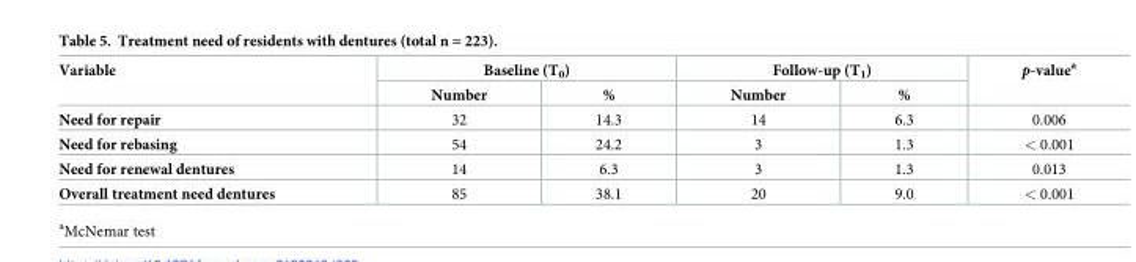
<table><thead><tr><td rowspan="2">Variable</td><td colspan="2">Baseline (T<sub>0</sub>)</td><td colspan="2">Follow-up (T<sub>1</sub>)</td><td rowspan="2">p-value<sup>a</sup></td></tr><tr><td>Number</td><td>%</td><td>Number</td><td>%</td></tr></thead><tbody><tr><td>Need for repair</td><td>32</td><td>14.3</td><td>14</td><td>6.3</td><td>0.006</td></tr><tr><td>Need for rebasing</td><td>54</td><td>24.2</td><td>3</td><td>1.3</td><td>&lt; 0.001</td></tr><tr><td>Need for renewal dentures</td><td>14</td><td>6.3</td><td>3</td><td>1.3</td><td>0.013</td></tr><tr><td>Overall treatment need dentures</td><td>85</td><td>38.1</td><td>20</td><td>9.0</td><td>&lt; 0.001</td></tr></tbody></table>